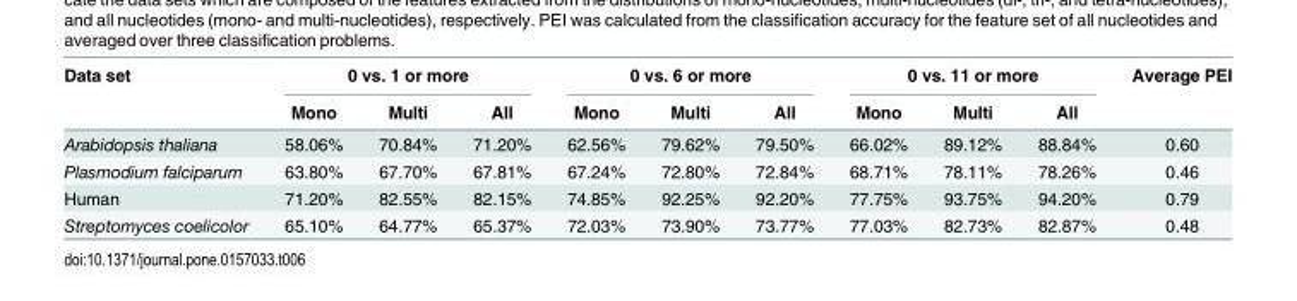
<table><thead><tr><td rowspan="2">Data set</td><td colspan="3">0 vs. 1 or more</td><td colspan="3">0 vs. 6 or more</td><td colspan="3">0 vs. 11 or more</td><td rowspan="2">Average PEI</td></tr><tr><td>Mono</td><td>Multi</td><td>All</td><td>Mono</td><td>Multi</td><td>All</td><td>Mono</td><td>Multi</td><td>All</td></tr></thead><tbody><tr><td>Arabidopsis thaliana</td><td>58.06%</td><td>70.84%</td><td>71.20%</td><td>62.56%</td><td>79.62%</td><td>79.50%</td><td>66.02%</td><td>89.12%</td><td>88.84%</td><td>0.60</td></tr><tr><td>Plasmodium falciparum</td><td>63.80%</td><td>67.70%</td><td>67.81%</td><td>67.24%</td><td>72.80%</td><td>72.84%</td><td>68.71%</td><td>78.11%</td><td>78.26%</td><td>0.46</td></tr><tr><td>Human</td><td>71.20%</td><td>82.55%</td><td>82.15%</td><td>74.85%</td><td>92.25%</td><td>92.20%</td><td>77.75%</td><td>93.75%</td><td>94.20%</td><td>0.79</td></tr><tr><td>Streptomyces coelicolor</td><td>65.10%</td><td>64.77%</td><td>65.37%</td><td>72.03%</td><td>73.90%</td><td>73.77%</td><td>77.03%</td><td>82.73%</td><td>82.87%</td><td>0.48</td></tr></tbody></table>